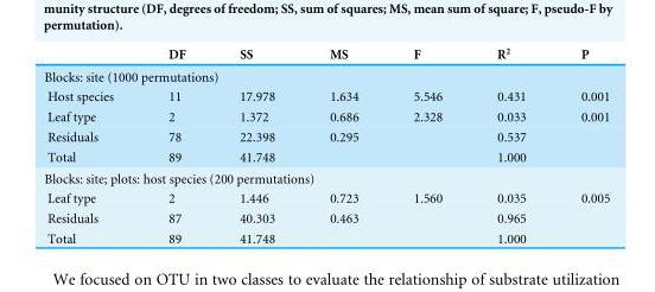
<table><thead><tr><td></td><td>DF</td><td>SS</td><td>MS</td><td>F</td><td>R<sup>2</sup></td><td>P</td></tr></thead><tbody><tr><td colspan="7">Blocks: site (1000 permutations)</td></tr><tr><td>Host species</td><td>11</td><td>17.978</td><td>1.634</td><td>5.546</td><td>0.431</td><td>0.001</td></tr><tr><td>Leaf type</td><td>2</td><td>1.372</td><td>0.686</td><td>2.328</td><td>0.033</td><td>0.001</td></tr><tr><td>Residuals</td><td>78</td><td>22.398</td><td>0.295</td><td></td><td>0.537</td><td></td></tr><tr><td>Total</td><td>89</td><td>41.748</td><td></td><td></td><td>1.000</td><td></td></tr><tr><td colspan="7">Blocks: site; plots: host species (200 permutations)</td></tr><tr><td>Leaf type</td><td>2</td><td>1.446</td><td>0.723</td><td>1.560</td><td>0.035</td><td>0.005</td></tr><tr><td>Residuals</td><td>87</td><td>40.303</td><td>0.463</td><td></td><td>0.965</td><td></td></tr><tr><td>Total</td><td>89</td><td>41.748</td><td></td><td></td><td>1.000</td><td></td></tr></tbody></table>